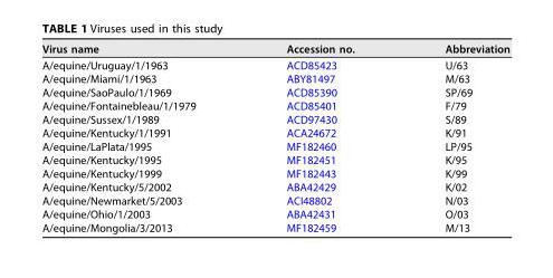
<table><thead><tr><td>Virus name</td><td>Accession no.</td><td>Abbreviation</td></tr></thead><tbody><tr><td>A/equine/Uruguay/1/1963</td><td>ACD85423</td><td>U/63</td></tr><tr><td>A/equine/Miami/1/1963</td><td>ABY81497</td><td>M/63</td></tr><tr><td>A/equine/SaoPaulo/1/1969</td><td>ACD85390</td><td>SP/69</td></tr><tr><td>A/equine/Fontainebleau/1/1979</td><td>ACD85401</td><td>F/79</td></tr><tr><td>A/equine/Sussex/1/1989</td><td>ACD97430</td><td>S/89</td></tr><tr><td>A/equine/Kentucky/1/1991</td><td>ACA24672</td><td>K/91</td></tr><tr><td>A/equine/LaPlata/1995</td><td>MF182460</td><td>LP/95</td></tr><tr><td>A/equine/Kentucky/1995</td><td>MF182451</td><td>K/95</td></tr><tr><td>A/equine/Kentucky/1999</td><td>MF182443</td><td>K/99</td></tr><tr><td>A/equine/Kentucky/5/2002</td><td>ABA42429</td><td>K/02</td></tr><tr><td>A/equine/Newmarket/5/2003</td><td>ACI48802</td><td>N/03</td></tr><tr><td>A/equine/Ohio/1/2003</td><td>ABA42431</td><td>O/03</td></tr><tr><td>A/equine/Mongolia/3/2013</td><td>MF182459</td><td>M/13</td></tr></tbody></table>